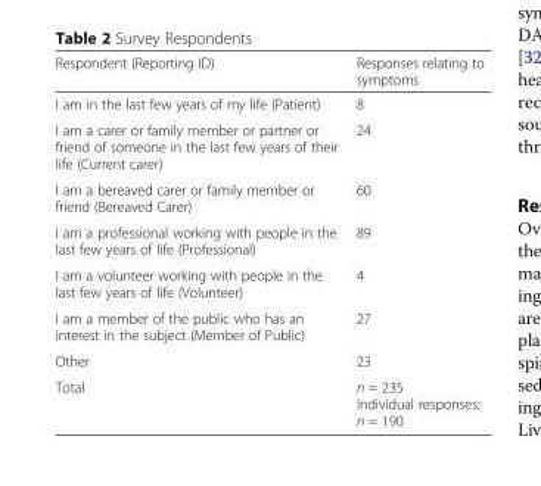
<table><thead><tr><td>Respondent (Reporting ID)</td><td>Responses relating to symptoms</td></tr></thead><tbody><tr><td>I am in the last few years of my life (Patient)</td><td>8</td></tr><tr><td>I am a carer or family member or partner or friend of someone in the last few years of their life (Current carer)</td><td>24</td></tr><tr><td>I am a bereaved carer or family member or friend (Bereaved Carer)</td><td>60</td></tr><tr><td>I am a professional working with people in the last few years of life (Professional)</td><td>89</td></tr><tr><td>I am a volunteer working with people in the last few years of life (Volunteer)</td><td>4</td></tr><tr><td>I am a member of the public who has an interest in the subject (Member of Public)</td><td>27</td></tr><tr><td>Other</td><td>23</td></tr><tr><td>Total</td><td>n = 235 Individual responses: n = 190</td></tr></tbody></table>